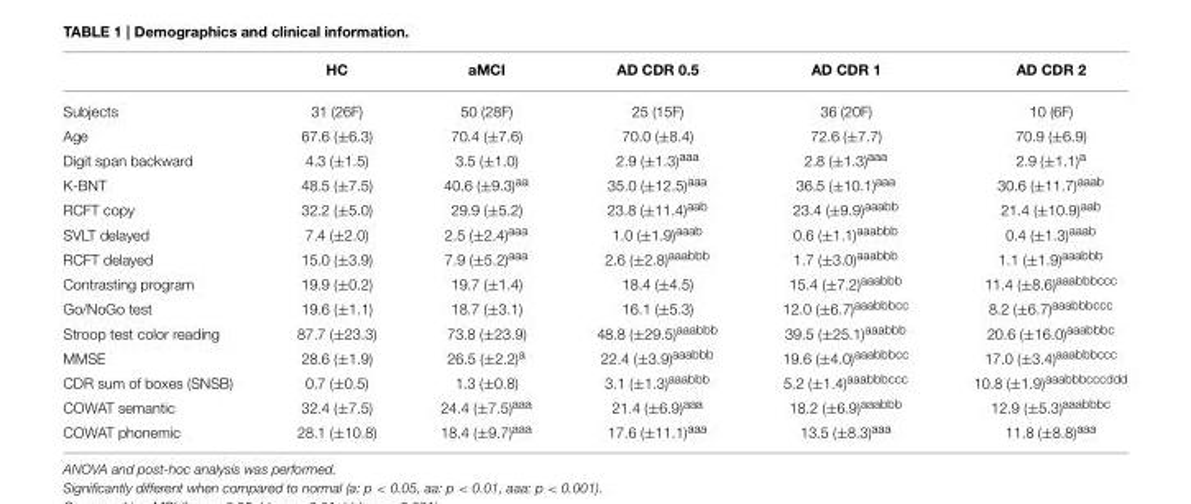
<table><thead><tr><td></td><td>HC</td><td>aMCI</td><td>AD CDR 0.5</td><td>AD CDR 1</td><td>AD CDR 2</td></tr></thead><tbody><tr><td>Subjects</td><td>31 (26F)</td><td>50 (28F)</td><td>25 (15F)</td><td>36 (20F)</td><td>10 (6F)</td></tr><tr><td>Age</td><td>67.6 (±6.3)</td><td>70.4 (±7.6)</td><td>70.0 (±8.4)</td><td>72.6 (±7.7)</td><td>70.9 (±6.9)</td></tr><tr><td>Digit span backward</td><td>4.3 (±1.5)</td><td>3.5 (±1.0)</td><td>2.9 (±1.3)<sup>aaa</sup></td><td>2.8 (±1.3)<sup>aaa</sup></td><td>2.9 (±1.1)<sup>a</sup></td></tr><tr><td>K-BNT</td><td>48.5 (±7.5)</td><td>40.6 (±9.3)<sup>aa</sup></td><td>35.0 (±12.5)<sup>aaa</sup></td><td>36.5 (±10.1)<sup>aaa</sup></td><td>30.6 (±11.7)<sup>aaab</sup></td></tr><tr><td>RCFT copy</td><td>32.2 (±5.0)</td><td>29.9 (±5.2)</td><td>23.8 (±11.4)<sup>aab</sup></td><td>23.4 (±9.9)<sup>aaabb</sup></td><td>21.4 (±10.9)<sup>aab</sup></td></tr><tr><td>SVLT delayed</td><td>7.4 (±2.0)</td><td>2.5 (±2.4)<sup>aaa</sup></td><td>1.0 (±1.9)<sup>aaab</sup></td><td>0.6 (±1.1)<sup>aaabbb</sup></td><td>0.4 (±1.3)<sup>aaab</sup></td></tr><tr><td>RCFT delayed</td><td>15.0 (±3.9)</td><td>7.9 (±5.2)<sup>aaa</sup></td><td>2.6 (±2.8)<sup>aaabbb</sup></td><td>1.7 (±3.0)<sup>aaabbb</sup></td><td>1.1 (±1.9)<sup>aaabbb</sup></td></tr><tr><td>Contrasting program</td><td>19.9 (±0.2)</td><td>19.7 (±1.4)</td><td>18.4 (±4.5)</td><td>15.4 (±7.2)<sup>aaabbb</sup></td><td>11.4 (±8.6)<sup>aaabbbccc</sup></td></tr><tr><td>Go/NoGo test</td><td>19.6 (±1.1)</td><td>18.7 (±3.1)</td><td>16.1 (±5.3)</td><td>12.0 (±6.7)<sup>aaabbbcc</sup></td><td>8.2 (±6.7)<sup>aaabbbccc</sup></td></tr><tr><td>Stroop test color reading</td><td>87.7 (±23.3)</td><td>73.8 (±23.9)</td><td>48.8 (±29.5)<sup>aaabbb</sup></td><td>39.5 (±25.1)<sup>aaabbb</sup></td><td>20.6 (±16.0)<sup>aaabbbc</sup></td></tr><tr><td>MMSE</td><td>28.6 (±1.9)</td><td>26.5 (±2.2)<sup>a</sup></td><td>22.4 (±3.9)<sup>aaabbb</sup></td><td>19.6 (±4.0)<sup>aaabbbcc</sup></td><td>17.0 (±3.4)<sup>aaabbbccc</sup></td></tr><tr><td>CDR sum of boxes (SNSB)</td><td>0.7 (±0.5)</td><td>1.3 (±0.8)</td><td>3.1 (±1.3)<sup>aaabbb</sup></td><td>5.2 (±1.4)<sup>aaabbbccc</sup></td><td>10.8 (±1.9)<sup>aaabbbcccddd</sup></td></tr><tr><td>COWAT semantic</td><td>32.4 (±7.5)</td><td>24.4 (±7.5)<sup>aaa</sup></td><td>21.4 (±6.9)<sup>aaa</sup></td><td>18.2 (±6.9)<sup>aaabbb</sup></td><td>12.9 (±5.3)<sup>aaabbbc</sup></td></tr><tr><td>COWAT phonemic</td><td>28.1 (±10.8)</td><td>18.4 (±9.7)<sup>aaa</sup></td><td>17.6 (±11.1)<sup>aaa</sup></td><td>13.5 (±8.3)<sup>aaa</sup></td><td>11.8 (±8.8)<sup>aaa</sup></td></tr></tbody></table>